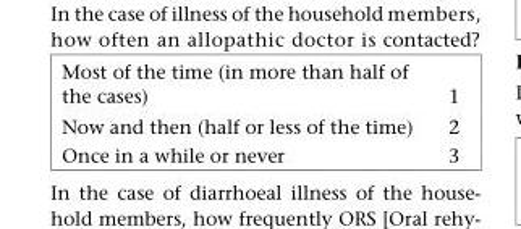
<table><tbody><tr><td>Most of the time (in more than half of the cases)</td><td>1</td></tr><tr><td>Now and then (half or less of the time)</td><td>2</td></tr><tr><td>Once in a while or never</td><td>3</td></tr></tbody></table>